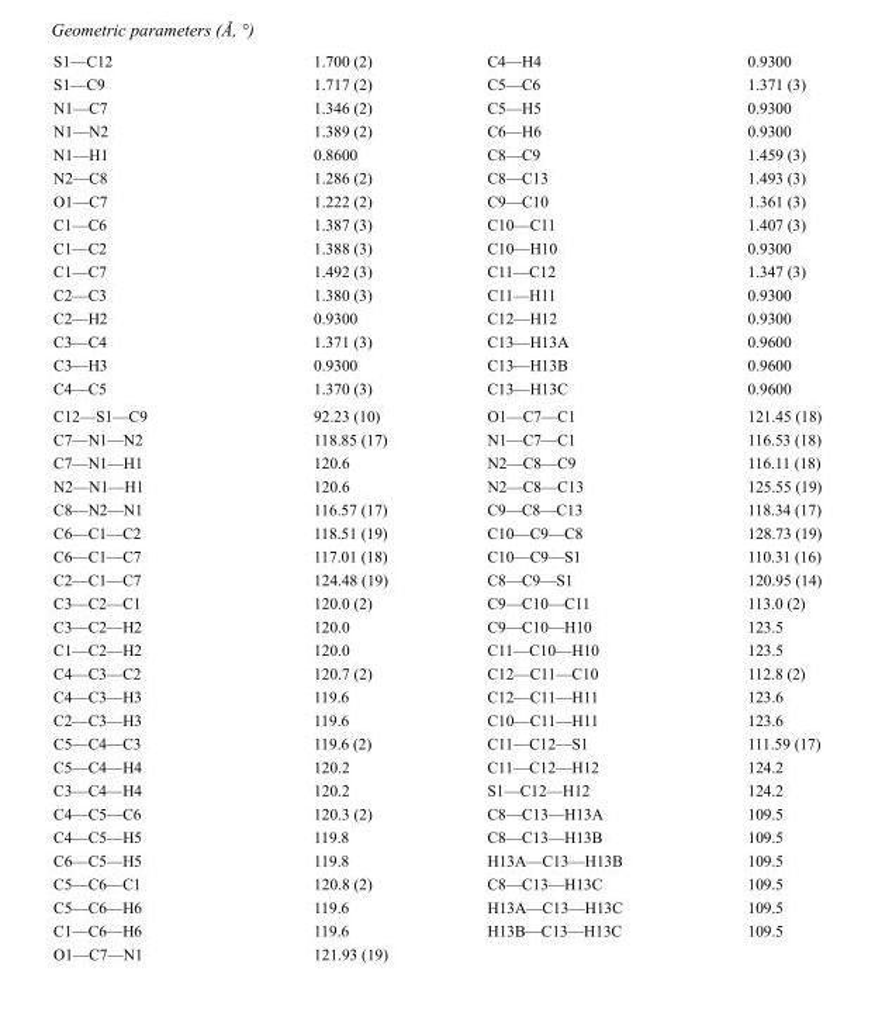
<table><tbody><tr><td>S1—C12</td><td>1.700 (2)</td><td>C4—H4</td><td>0.9300</td></tr><tr><td>S1—C9</td><td>1.717 (2)</td><td>C5—C6</td><td>1.371 (3)</td></tr><tr><td>N1—C7</td><td>1.346 (2)</td><td>C5—H5</td><td>0.9300</td></tr><tr><td>N1—N2</td><td>1.389 (2)</td><td>C6—H6</td><td>0.9300</td></tr><tr><td>N1—H1</td><td>0.8600</td><td>C8—C9</td><td>1.459 (3)</td></tr><tr><td>N2—C8</td><td>1.286 (2)</td><td>C8—C13</td><td>1.493 (3)</td></tr><tr><td>O1—C7</td><td>1.222 (2)</td><td>C9—C10</td><td>1.361 (3)</td></tr><tr><td>C1—C6</td><td>1.387 (3)</td><td>C10—C11</td><td>1.407 (3)</td></tr><tr><td>C1—C2</td><td>1.388 (3)</td><td>C10—H10</td><td>0.9300</td></tr><tr><td>C1—C7</td><td>1.492 (3)</td><td>C11—C12</td><td>1.347 (3)</td></tr><tr><td>C2—C3</td><td>1.380 (3)</td><td>C11—H11</td><td>0.9300</td></tr><tr><td>C2—H2</td><td>0.9300</td><td>C12—H12</td><td>0.9300</td></tr><tr><td>C3—C4</td><td>1.371 (3)</td><td>C13—H13A</td><td>0.9600</td></tr><tr><td>C3—H3</td><td>0.9300</td><td>C13—H13B</td><td>0.9600</td></tr><tr><td>C4—C5</td><td>1.370 (3)</td><td>C13—H13C</td><td>0.9600</td></tr><tr><td>C12—S1—C9</td><td>92.23 (10)</td><td>O1—C7—C1</td><td>121.45 (18)</td></tr><tr><td>C7—N1—N2</td><td>118.85 (17)</td><td>N1—C7—C1</td><td>116.53 (18)</td></tr><tr><td>C7—N1—H1</td><td>120.6</td><td>N2—C8—C9</td><td>116.11 (18)</td></tr><tr><td>N2—N1—H1</td><td>120.6</td><td>N2—C8—C13</td><td>125.55 (19)</td></tr><tr><td>C8—N2—N1</td><td>116.57 (17)</td><td>C9—C8—C13</td><td>118.34 (17)</td></tr><tr><td>C6—C1—C2</td><td>118.51 (19)</td><td>C10—C9—C8</td><td>128.73 (19)</td></tr><tr><td>C6—C1—C7</td><td>117.01 (18)</td><td>C10—C9—S1</td><td>110.31 (16)</td></tr><tr><td>C2—C1—C7</td><td>124.48 (19)</td><td>C8—C9—S1</td><td>120.95 (14)</td></tr><tr><td>C3—C2—C1</td><td>120.0 (2)</td><td>C9—C10—C11</td><td>113.0 (2)</td></tr><tr><td>C3—C2—H2</td><td>120.0</td><td>C9—C10—H10</td><td>123.5</td></tr><tr><td>C1—C2—H2</td><td>120.0</td><td>C11—C10—H10</td><td>123.5</td></tr><tr><td>C4—C3—C2</td><td>120.7 (2)</td><td>C12—C11—C10</td><td>112.8 (2)</td></tr><tr><td>C4—C3—H3</td><td>119.6</td><td>C12—C11—H11</td><td>123.6</td></tr><tr><td>C2—C3—H3</td><td>119.6</td><td>C10—C11—H11</td><td>123.6</td></tr><tr><td>C5—C4—C3</td><td>119.6 (2)</td><td>C11—C12—S1</td><td>111.59 (17)</td></tr><tr><td>C5—C4—H4</td><td>120.2</td><td>C11—C12—H12</td><td>124.2</td></tr><tr><td>C3—C4—H4</td><td>120.2</td><td>S1—C12—H12</td><td>124.2</td></tr><tr><td>C4—C5—C6</td><td>120.3 (2)</td><td>C8—C13—H13A</td><td>109.5</td></tr><tr><td>C4—C5—H5</td><td>119.8</td><td>C8—C13—H13B</td><td>109.5</td></tr><tr><td>C6—C5—H5</td><td>119.8</td><td>H13A—C13—H13B</td><td>109.5</td></tr><tr><td>C5—C6—C1</td><td>120.8 (2)</td><td>C8—C13—H13C</td><td>109.5</td></tr><tr><td>C5—C6—H6</td><td>119.6</td><td>H13A—C13—H13C</td><td>109.5</td></tr><tr><td>C1—C6—H6</td><td>119.6</td><td>H13B—C13—H13C</td><td>109.5</td></tr><tr><td>O1—C7—N1</td><td>121.93 (19)</td><td></td><td></td></tr></tbody></table>